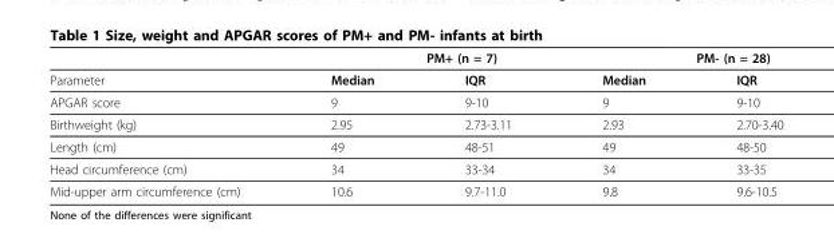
<table><thead><tr><td rowspan="2">Parameter</td><td colspan="2">PM+ (n = 7)</td><td colspan="2">PM- (n = 28)</td></tr><tr><td>Median</td><td>IQR</td><td>Median</td><td>IQR</td></tr></thead><tbody><tr><td>APGAR score</td><td>9</td><td>9-10</td><td>9</td><td>9-10</td></tr><tr><td>Birthweight (kg)</td><td>2.95</td><td>2.73-3.11</td><td>2.93</td><td>2.70-3.40</td></tr><tr><td>Length (cm)</td><td>49</td><td>48-51</td><td>49</td><td>48-50</td></tr><tr><td>Head circumference (cm)</td><td>34</td><td>33-34</td><td>34</td><td>33-35</td></tr><tr><td>Mid-upper arm circumference (cm)</td><td>10.6</td><td>9.7-11.0</td><td>9.8</td><td>9.6-10.5</td></tr></tbody></table>